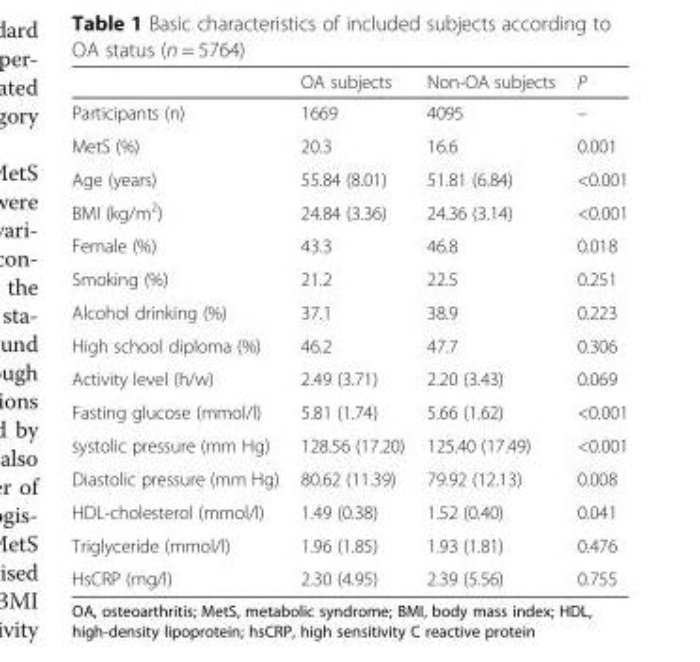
<table><thead><tr><td></td><td>OA subjects</td><td>Non-OA subjects</td><td>P</td></tr></thead><tbody><tr><td>Participants (n)</td><td>1669</td><td>4095</td><td>–</td></tr><tr><td>MetS (%)</td><td>20.3</td><td>16.6</td><td>0.001</td></tr><tr><td>Age (years)</td><td>55.84 (8.01)</td><td>51.81 (6.84)</td><td>&lt;0.001</td></tr><tr><td>BMI (kg/m<sup>2</sup>)</td><td>24.84 (3.36)</td><td>24.36 (3.14)</td><td>&lt;0.001</td></tr><tr><td>Female (%)</td><td>43.3</td><td>46.8</td><td>0.018</td></tr><tr><td>Smoking (%)</td><td>21.2</td><td>22.5</td><td>0.251</td></tr><tr><td>Alcohol drinking (%)</td><td>37.1</td><td>38.9</td><td>0.223</td></tr><tr><td>High school diploma (%)</td><td>46.2</td><td>47.7</td><td>0.306</td></tr><tr><td>Activity level (h/w)</td><td>2.49 (3.71)</td><td>2.20 (3.43)</td><td>0.069</td></tr><tr><td>Fasting glucose (mmol/l)</td><td>5.81 (1.74)</td><td>5.66 (1.62)</td><td>&lt;0.001</td></tr><tr><td>systolic pressure (mm Hg)</td><td>128.56 (17.20)</td><td>125.40 (17.49)</td><td>&lt;0.001</td></tr><tr><td>Diastolic pressure (mm Hg)</td><td>80.62 (11.39)</td><td>79.92 (12.13)</td><td>0.008</td></tr><tr><td>HDL-cholesterol (mmol/l)</td><td>1.49 (0.38)</td><td>1.52 (0.40)</td><td>0.041</td></tr><tr><td>Triglyceride (mmol/l)</td><td>1.96 (1.85)</td><td>1.93 (1.81)</td><td>0.476</td></tr><tr><td>HsCRP (mg/l)</td><td>2.30 (4.95)</td><td>2.39 (5.56)</td><td>0.755</td></tr></tbody></table>